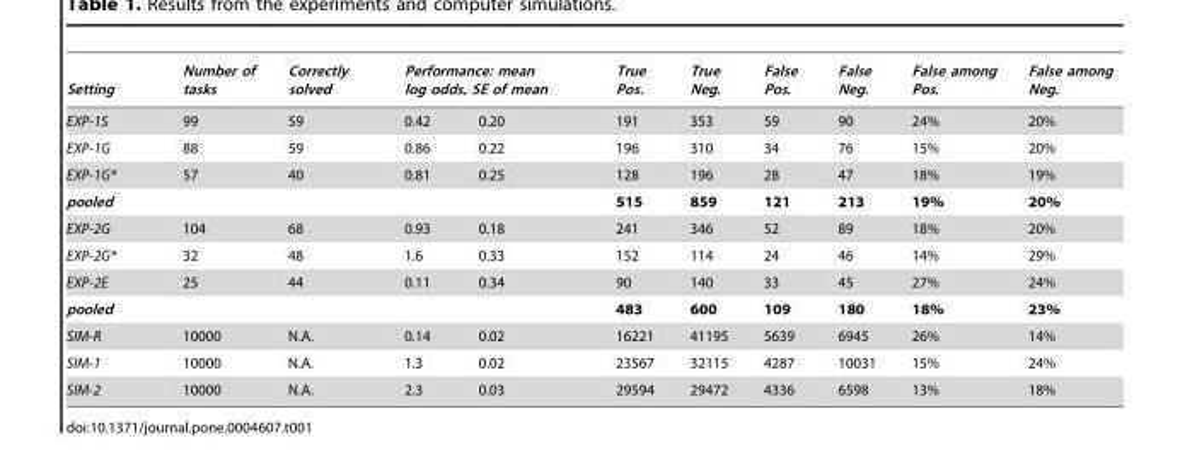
<table><thead><tr><td rowspan="2">Setting EXP-1S</td><td rowspan="2">Number of tasks 99</td><td rowspan="2">Correctly solved 59</td><td colspan="2">Performance: mean log odds, SE of mean</td><td rowspan="2">True Pos. 191</td><td rowspan="2">True Neg. 353</td><td rowspan="2">False Pos. 59</td><td rowspan="2">False Neg. 90</td><td rowspan="2">False among Pos. 24%</td><td rowspan="2">False among Neg. 20%</td></tr><tr><td>0.42</td><td>0.20</td></tr></thead><tbody><tr><td>EXP-1G</td><td>88</td><td>59</td><td>0.86</td><td>0.22</td><td>196</td><td>310</td><td>34</td><td>76</td><td>15%</td><td>20%</td></tr><tr><td>EXP-1G*</td><td>57</td><td>40</td><td>0.81</td><td>0.25</td><td>128</td><td>196</td><td>28</td><td>47</td><td>18%</td><td>19%</td></tr><tr><td>pooled</td><td></td><td></td><td></td><td></td><td>515</td><td>859</td><td>121</td><td>213</td><td>19%</td><td>20%</td></tr><tr><td>EXP-2G</td><td>104</td><td>68</td><td>0.93</td><td>0.18</td><td>241</td><td>346</td><td>52</td><td>89</td><td>18%</td><td>20%</td></tr><tr><td>EXP-2G*</td><td>32</td><td>48</td><td>1.6</td><td>0.33</td><td>152</td><td>114</td><td>24</td><td>46</td><td>14%</td><td>29%</td></tr><tr><td>EXP-2E</td><td>25</td><td>44</td><td>0.11</td><td>0.34</td><td>90</td><td>140</td><td>33</td><td>45</td><td>27%</td><td>24%</td></tr><tr><td>pooled</td><td></td><td></td><td></td><td></td><td>483</td><td>600</td><td>109</td><td>180</td><td>18%</td><td>23%</td></tr><tr><td>SIM-R</td><td>10000</td><td>N.A.</td><td>0.14</td><td>0.02</td><td>16221</td><td>41195</td><td>5639</td><td>6945</td><td>26%</td><td>14%</td></tr><tr><td>SIM-1</td><td>10000</td><td>N.A.</td><td>1.3</td><td>0.02</td><td>23567</td><td>32115</td><td>4287</td><td>10031</td><td>15%</td><td>24%</td></tr><tr><td>SIM-2</td><td>10000</td><td>N.A.</td><td>2.3</td><td>0.03</td><td>29594</td><td>29472</td><td>4336</td><td>6598</td><td>13%</td><td>18%</td></tr></tbody></table>